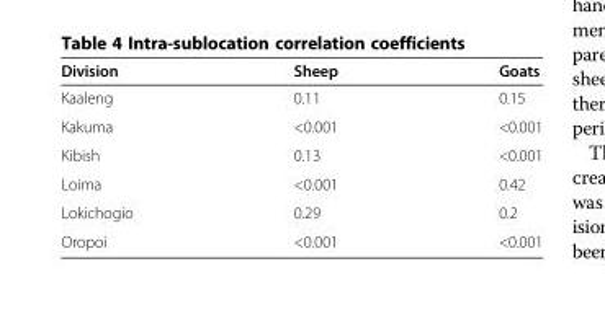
<table><thead><tr><td>Division</td><td>Sheep</td><td>Goats</td></tr></thead><tbody><tr><td>Kaaleng</td><td>0.11</td><td>0.15</td></tr><tr><td>Kakuma</td><td>&lt;0.001</td><td>&lt;0.001</td></tr><tr><td>Kibish</td><td>0.13</td><td>&lt;0.001</td></tr><tr><td>Loima</td><td>&lt;0.001</td><td>0.42</td></tr><tr><td>Lokichogio</td><td>0.29</td><td>0.2</td></tr><tr><td>Oropoi</td><td>&lt;0.001</td><td>&lt;0.001</td></tr></tbody></table>